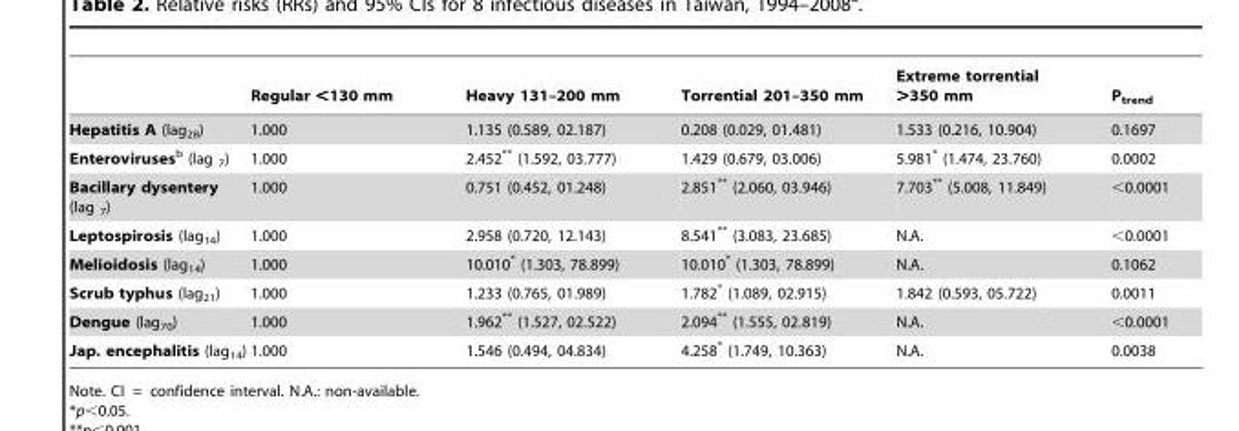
<table><thead><tr><td></td><td>Regular &lt;130 mm</td><td>Heavy 131–200 mm</td><td>Torrential 201–350 mm</td><td>Extreme torrential &gt;350 mm</td><td>P<sub>trend</sub></td></tr></thead><tbody><tr><td>Hepatitis A (lag<sub>28</sub>)</td><td>1.000</td><td>1.135 (0.589, 02.187)</td><td>0.208 (0.029, 01.481)</td><td>1.533 (0.216, 10.904)</td><td>0.1697</td></tr><tr><td>Enterovirusesb (lag <sub>7</sub>)</td><td>1.000</td><td>2.452** (1.592, 03.777)</td><td>1.429 (0.679, 03.006)</td><td>5.981* (1.474, 23.760)</td><td>0.0002</td></tr><tr><td>Bacillary dysentery (lag <sub>7</sub>)</td><td>1.000</td><td>0.751 (0.452, 01.248)</td><td>2.851** (2.060, 03.946)</td><td>7.703** (5.008, 11.849)</td><td>&lt;0.0001</td></tr><tr><td>Leptospirosis (lag<sub>14</sub>)</td><td>1.000</td><td>2.958 (0.720, 12.143)</td><td>8.541** (3.083, 23.685)</td><td>N.A.</td><td>&lt;0.0001</td></tr><tr><td>Melioidosis (lag<sub>14</sub>)</td><td>1.000</td><td>10.010* (1.303, 78.899)</td><td>10.010* (1.303, 78.899)</td><td>N.A.</td><td>0.1062</td></tr><tr><td>Scrub typhus (lag<sub>21</sub>)</td><td>1.000</td><td>1.233 (0.765, 01.989)</td><td>1.782* (1.089, 02.915)</td><td>1.842 (0.593, 05.722)</td><td>0.0011</td></tr><tr><td>Dengue (lag<sub>70</sub>)</td><td>1.000</td><td>1.962** (1.527, 02.522)</td><td>2.094** (1.555, 02.819)</td><td>N.A.</td><td>&lt;0.0001</td></tr><tr><td>Jap. encephalitis (lag<sub>14</sub>)</td><td>1.000</td><td>1.546 (0.494, 04.834)</td><td>4.258* (1.749, 10.363)</td><td>N.A.</td><td>0.0038</td></tr></tbody></table>